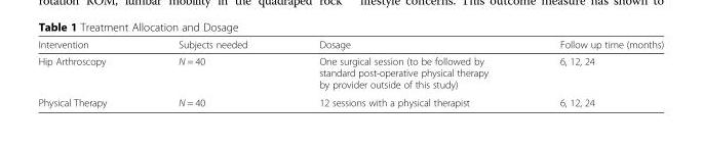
<table><thead><tr><td>Intervention</td><td>Subjects needed</td><td>Dosage</td><td>Follow up time (months)</td></tr></thead><tbody><tr><td>Hip Arthroscopy</td><td>N = 40</td><td>One surgical session (to be followed by standard post-operative physical therapy by provider outside of this study)</td><td>6, 12, 24</td></tr><tr><td>Physical Therapy</td><td>N = 40</td><td>12 sessions with a physical therapist</td><td>6, 12, 24</td></tr></tbody></table>